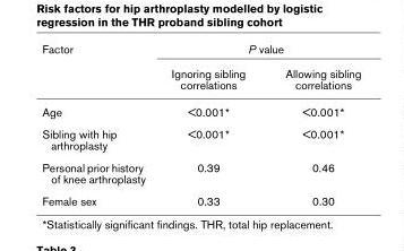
<table><thead><tr><td rowspan="2">Factor</td><td colspan="2">P value</td></tr><tr><td>Ignoring sibling correlations</td><td>Allowing sibling correlations</td></tr></thead><tbody><tr><td>Age</td><td>&lt;0.001*</td><td>&lt;0.001*</td></tr><tr><td>Sibling with hip arthroplasty</td><td>&lt;0.001*</td><td>&lt;0.001*</td></tr><tr><td>Personal prior history of knee arthroplasty</td><td>0.39</td><td>0.46</td></tr><tr><td>Female sex</td><td>0.33</td><td>0.30</td></tr></tbody></table>